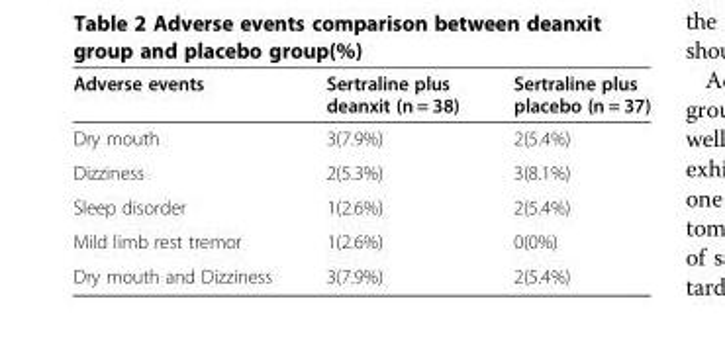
<table><thead><tr><td>Adverse events</td><td>Sertraline plus deanxit (n = 38)</td><td>Sertraline plus placebo (n = 37)</td></tr></thead><tbody><tr><td>Dry mouth</td><td>3(7.9%)</td><td>2(5.4%)</td></tr><tr><td>Dizziness</td><td>2(5.3%)</td><td>3(8.1%)</td></tr><tr><td>Sleep disorder</td><td>1(2.6%)</td><td>2(5.4%)</td></tr><tr><td>Mild limb rest tremor</td><td>1(2.6%)</td><td>0(0%)</td></tr><tr><td>Dry mouth and Dizziness</td><td>3(7.9%)</td><td>2(5.4%)</td></tr></tbody></table>